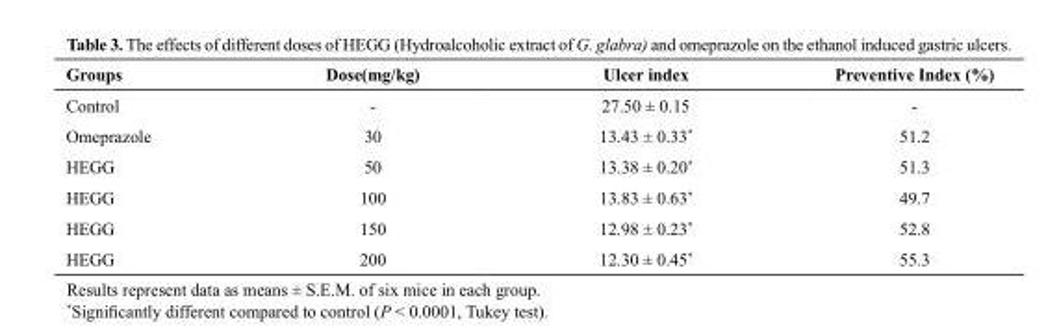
<table><thead><tr><td>Groups</td><td>Dose(mg/kg)</td><td>Ulcer index</td><td>Preventive Index (%)</td></tr></thead><tbody><tr><td>Control</td><td>-</td><td>27.50 ± 0.15</td><td>-</td></tr><tr><td>Omeprazole</td><td>30</td><td>13.43 ± 0.33*</td><td>51.2</td></tr><tr><td>HEGG</td><td>50</td><td>13.38 ± 0.20*</td><td>51.3</td></tr><tr><td>HEGG</td><td>100</td><td>13.83 ± 0.63*</td><td>49.7</td></tr><tr><td>HEGG</td><td>150</td><td>12.98 ± 0.23*</td><td>52.8</td></tr><tr><td>HEGG</td><td>200</td><td>12.30 ± 0.45*</td><td>55.3</td></tr></tbody></table>